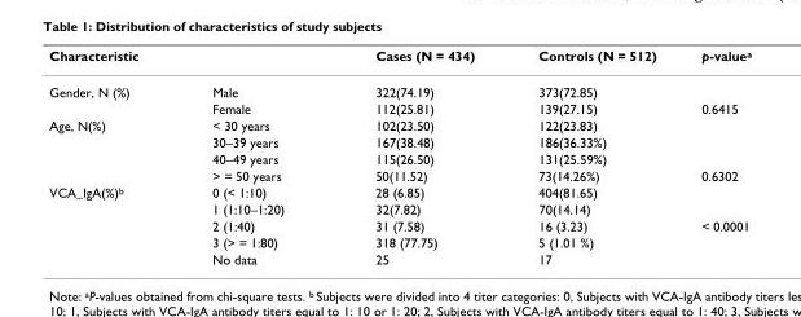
<table><thead><tr><td>Characteristic</td><td></td><td>Cases (N = 434)</td><td>Controls (N = 512)</td><td>p-value<sup>a</sup></td></tr></thead><tbody><tr><td rowspan="2">Gender, N (%)</td><td>Male</td><td>322(74.19)</td><td>373(72.85)</td><td></td></tr><tr><td>Female</td><td>112(25.81)</td><td>139(27.15)</td><td>0.6415</td></tr><tr><td rowspan="4">Age, N(%)</td><td>&lt; 30 years</td><td>102(23.50)</td><td>122(23.83)</td><td></td></tr><tr><td>30–39 years</td><td>167(38.48)</td><td>186(36.33%)</td><td></td></tr><tr><td>40–49 years</td><td>115(26.50)</td><td>131(25.59%)</td><td></td></tr><tr><td>&gt; = 50 years</td><td>50(11.52)</td><td>73(14.26%)</td><td>0.6302</td></tr><tr><td rowspan="5">VCA_IgA(%)<sup>b</sup></td><td>0 (&lt; 1:10)</td><td>28 (6.85)</td><td>404(81.65)</td><td></td></tr><tr><td>1 (1:10–1:20)</td><td>32(7.82)</td><td>70(14.14)</td><td></td></tr><tr><td>2 (1:40)</td><td>31 (7.58)</td><td>16 (3.23)</td><td>&lt; 0.0001</td></tr><tr><td>3 (&gt; = 1:80)</td><td>318 (77.75)</td><td>5 (1.01 %)</td><td></td></tr><tr><td>No data</td><td>25</td><td>17</td><td></td></tr></tbody></table>